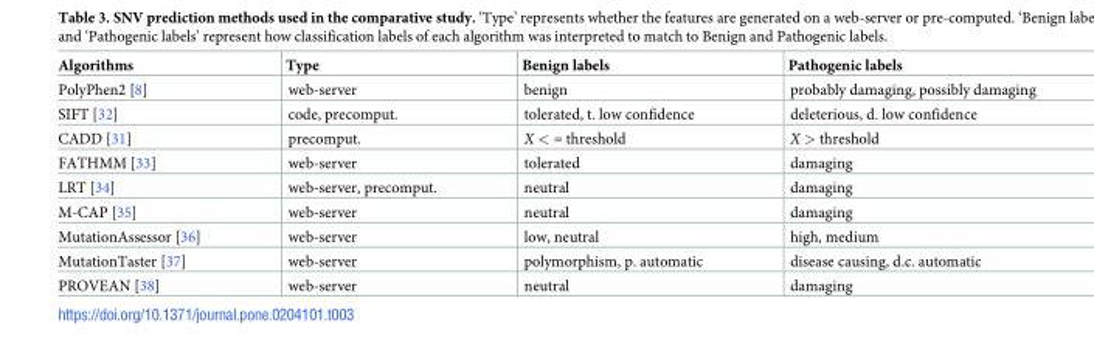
<table><thead><tr><td>Algorithms</td><td>Type</td><td>Benign labels</td><td>Pathogenic labels</td></tr></thead><tbody><tr><td>PolyPhen2 [8]</td><td>web-server</td><td>benign</td><td>probably damaging, possibly damaging</td></tr><tr><td>SIFT [32]</td><td>code, precomput.</td><td>tolerated, t. low confidence</td><td>deleterious, d. low confidence</td></tr><tr><td>CADD [31]</td><td>precomput.</td><td>X &lt; = threshold</td><td>X &gt; threshold</td></tr><tr><td>FATHMM [33]</td><td>web-server</td><td>tolerated</td><td>damaging</td></tr><tr><td>LRT [34]</td><td>web-server, precomput.</td><td>neutral</td><td>damaging</td></tr><tr><td>M-CAP [35]</td><td>web-server</td><td>neutral</td><td>damaging</td></tr><tr><td>MutationAssessor [36]</td><td>web-server</td><td>low, neutral</td><td>high, medium</td></tr><tr><td>MutationTaster [37]</td><td>web-server</td><td>polymorphism, p. automatic</td><td>disease causing, d.c. automatic</td></tr><tr><td>PROVEAN [38]</td><td>web-server</td><td>neutral</td><td>damaging</td></tr></tbody></table>